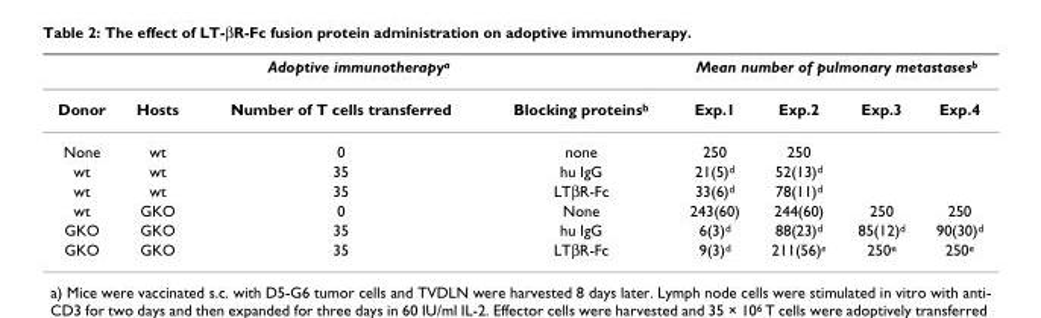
<table><thead><tr><td colspan="4">Adoptive immunotherapy<sup>a</sup></td><td colspan="4">Mean number of pulmonary metastases<sup>b</sup></td></tr><tr><td>Donor</td><td>Hosts</td><td>Number of T cells transferred</td><td>Blocking proteins<sup>b</sup></td><td>Exp.1</td><td>Exp.2</td><td>Exp.3</td><td>Exp.4</td></tr></thead><tbody><tr><td>None</td><td>wt</td><td>0</td><td>none</td><td>250</td><td>250</td><td></td><td></td></tr><tr><td>wt</td><td>wt</td><td>35</td><td>hu IgG</td><td>21(5)<sup>d</sup></td><td>52(13)<sup>d</sup></td><td></td><td></td></tr><tr><td>wt</td><td>wt</td><td>35</td><td>LTβR-Fc</td><td>33(6)<sup>d</sup></td><td>78(11)<sup>d</sup></td><td></td><td></td></tr><tr><td>wt</td><td>GKO</td><td>0</td><td>None</td><td>243(60)</td><td>244(60)</td><td>250</td><td>250</td></tr><tr><td>GKO</td><td>GKO</td><td>35</td><td>hu IgG</td><td>6(3)<sup>d</sup></td><td>88(23)<sup>d</sup></td><td>85(12)<sup>d</sup></td><td>90(30)<sup>d</sup></td></tr><tr><td>GKO</td><td>GKO</td><td>35</td><td>LTβR-Fc</td><td>9(3)<sup>d</sup></td><td>211(56)<sup>e</sup></td><td>250<sup>e</sup></td><td>250<sup>e</sup></td></tr></tbody></table>